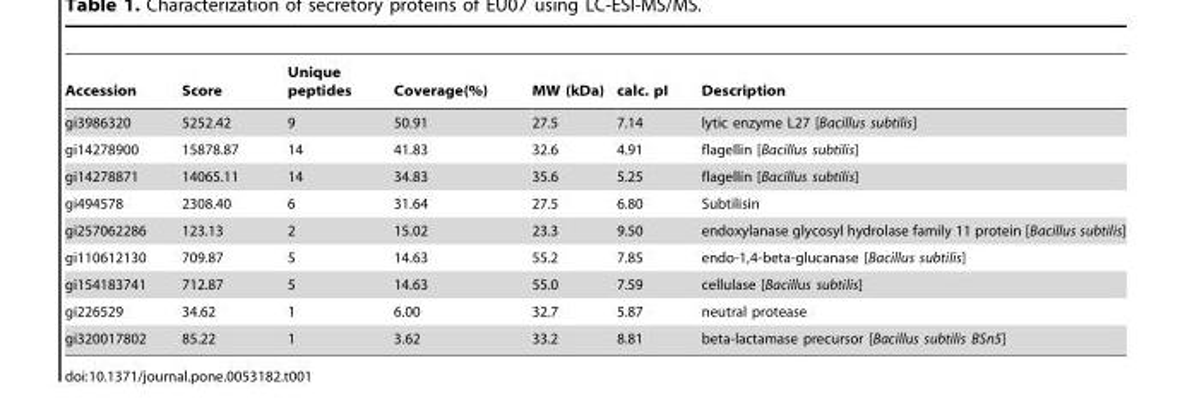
<table><thead><tr><td>Accession</td><td>Score</td><td>Unique peptides</td><td>Coverage(%)</td><td>MW (kDa)</td><td>calc. pI</td><td>Description</td></tr></thead><tbody><tr><td>gi3986320</td><td>5252.42</td><td>9</td><td>50.91</td><td>27.5</td><td>7.14</td><td>lytic enzyme L27 [Bacillus subtilis]</td></tr><tr><td>gi14278900</td><td>15878.87</td><td>14</td><td>41.83</td><td>32.6</td><td>4.91</td><td>flagellin [Bacillus subtilis]</td></tr><tr><td>gi14278871</td><td>14065.11</td><td>14</td><td>34.83</td><td>35.6</td><td>5.25</td><td>flagellin [Bacillus subtilis]</td></tr><tr><td>gi494578</td><td>2308.40</td><td>6</td><td>31.64</td><td>27.5</td><td>6.80</td><td>Subtilisin</td></tr><tr><td>gi257062286</td><td>123.13</td><td>2</td><td>15.02</td><td>23.3</td><td>9.50</td><td>endoxylanase glycosyl hydrolase family 11 protein [Bacillus subtilis]</td></tr><tr><td>gi110612130</td><td>709.87</td><td>5</td><td>14.63</td><td>55.2</td><td>7.85</td><td>endo-1,4-beta-glucanase [Bacillus subtilis]</td></tr><tr><td>gi154183741</td><td>712.87</td><td>5</td><td>14.63</td><td>55.0</td><td>7.59</td><td>cellulase [Bacillus subtilis]</td></tr><tr><td>gi226529</td><td>34.62</td><td>1</td><td>6.00</td><td>32.7</td><td>5.87</td><td>neutral protease</td></tr><tr><td>gi320017802</td><td>85.22</td><td>1</td><td>3.62</td><td>33.2</td><td>8.81</td><td>beta-lactamase precursor [Bacillus subtilis BSn5]</td></tr></tbody></table>